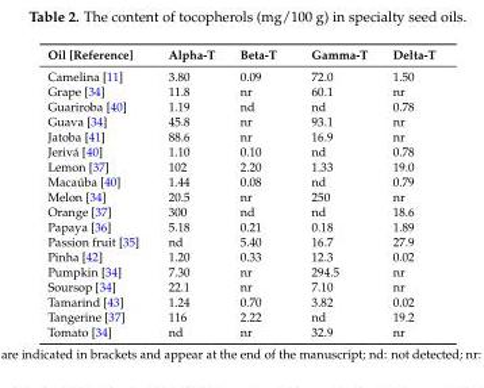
<table><thead><tr><td>Oil [Reference]</td><td>Alpha-T</td><td>Beta-T</td><td>Gamma-T</td><td>Delta-T</td></tr></thead><tbody><tr><td>Camelina [11]</td><td>3.80</td><td>0.09</td><td>72.0</td><td>1.50</td></tr><tr><td>Grape [34]</td><td>11.8</td><td>nr</td><td>60.1</td><td>nr</td></tr><tr><td>Guariroba [40]</td><td>1.19</td><td>nd</td><td>nd</td><td>0.78</td></tr><tr><td>Guava [34]</td><td>45.8</td><td>nr</td><td>93.1</td><td>nr</td></tr><tr><td>Jatoba [41]</td><td>88.6</td><td>nr</td><td>16.9</td><td>nr</td></tr><tr><td>Jerivá [40]</td><td>1.10</td><td>0.10</td><td>nd</td><td>0.78</td></tr><tr><td>Lemon [37]</td><td>102</td><td>2.20</td><td>1.33</td><td>19.0</td></tr><tr><td>Macaúba [40]</td><td>1.44</td><td>0.08</td><td>nd</td><td>0.79</td></tr><tr><td>Melon [34]</td><td>20.5</td><td>nr</td><td>250</td><td>nr</td></tr><tr><td>Orange [37]</td><td>300</td><td>nd</td><td>nd</td><td>18.6</td></tr><tr><td>Papaya [36]</td><td>5.18</td><td>0.21</td><td>0.18</td><td>1.89</td></tr><tr><td>Passion fruit [35]</td><td>nd</td><td>5.40</td><td>16.7</td><td>27.9</td></tr><tr><td>Pinha [42]</td><td>1.20</td><td>0.33</td><td>12.3</td><td>0.02</td></tr><tr><td>Pumpkin [34]</td><td>7.30</td><td>nr</td><td>294.5</td><td>nr</td></tr><tr><td>Soursop [34]</td><td>22.1</td><td>nr</td><td>7.10</td><td>nr</td></tr><tr><td>Tamarind [43]</td><td>1.24</td><td>0.70</td><td>3.82</td><td>0.02</td></tr><tr><td>Tangerine [37]</td><td>116</td><td>2.22</td><td>nd</td><td>19.2</td></tr><tr><td>Tomato [34]</td><td>nd</td><td>nr</td><td>32.9</td><td>nr</td></tr></tbody></table>